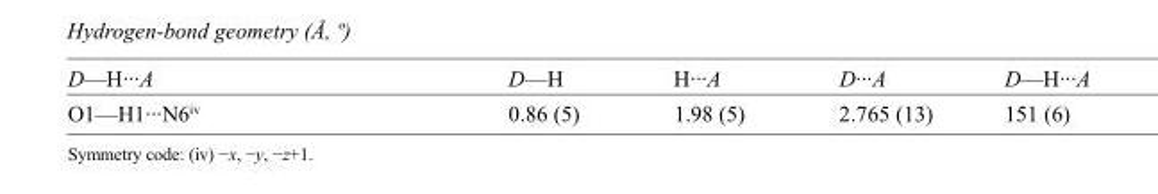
<table><tbody><tr><td>D—H···A</td><td>D—H</td><td>H···A</td><td>D···A</td><td>D—H···A</td></tr><tr><td>O1—H1···N6<sup>iv</sup></td><td>0.86 (5)</td><td>1.98 (5)</td><td>2.765 (13)</td><td>151 (6)</td></tr></tbody></table>